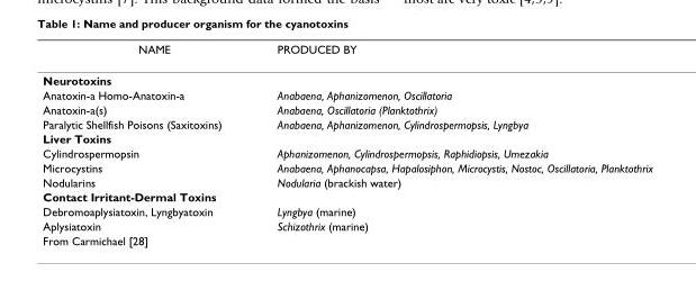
<table><thead><tr><td>NAME</td><td>PRODUCED BY</td></tr></thead><tbody><tr><td colspan="2">Neurotoxins</td></tr><tr><td>Anatoxin-a Homo-Anatoxin-a</td><td>Anabaena, Aphanizomenon, Oscillatoria</td></tr><tr><td>Anatoxin-a(s)</td><td>Anabaena, Oscillatoria (Planktothrix)</td></tr><tr><td>Paralytic Shellfish Poisons (Saxitoxins)</td><td>Anabaena, Aphanizomenon, Cylindrospermopsis, Lyngbya</td></tr><tr><td colspan="2">Liver Toxins</td></tr><tr><td>Cylindrospermopsin</td><td>Aphanizomenon, Cylindrospermopsis, Raphidiopsis, Umezakia</td></tr><tr><td>Microcystins</td><td>Anabaena, Aphanocapsa, Hapalosiphon, Microcystis, Nostoc, Oscillatoria, Planktothrix</td></tr><tr><td>Nodularins</td><td>Nodularia (brackish water)</td></tr><tr><td colspan="2">Contact Irritant-Dermal Toxins</td></tr><tr><td>Debromoaplysiatoxin, Lyngbyatoxin</td><td>Lyngbya (marine)</td></tr><tr><td>Aplysiatoxin</td><td>Schizothrix (marine)</td></tr><tr><td colspan="2">From Carmichael [28]</td></tr></tbody></table>